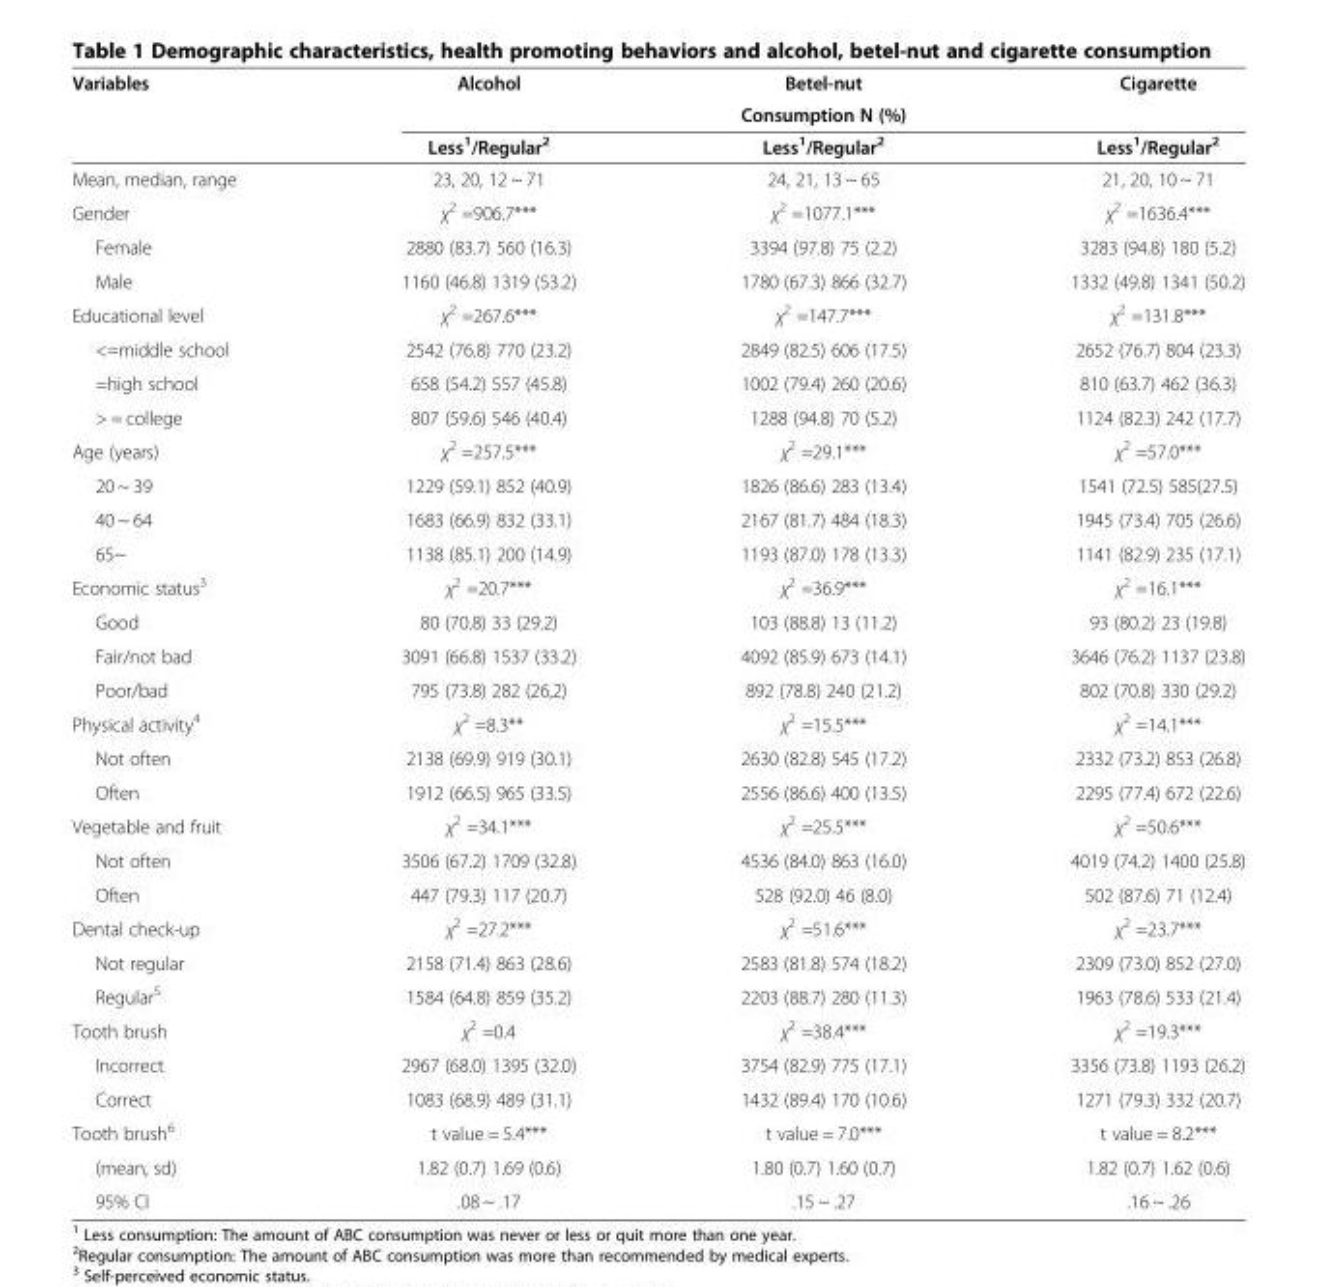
<table><thead><tr><td rowspan="3">Variables</td><td>Alcohol</td><td>Betel-nut</td><td>Cigarette</td></tr><tr><td colspan="3">Consumption N (%)</td></tr><tr><td>Less<sup>1</sup>/Regular<sup>2</sup></td><td>Less<sup>1</sup>/Regular<sup>2</sup></td><td>Less<sup>1</sup>/Regular<sup>2</sup></td></tr></thead><tbody><tr><td>Mean, median, range</td><td>23, 20, 12 ~ 71</td><td>24, 21, 13 ~ 65</td><td>21, 20, 10 ~ 71</td></tr><tr><td>Gender</td><td>χ<sup>2</sup> =906.7***</td><td>χ<sup>2</sup> =1077.1***</td><td>χ<sup>2</sup> =1636.4***</td></tr><tr><td>Female</td><td>2880 (83.7) 560 (16.3)</td><td>3394 (97.8) 75 (2.2)</td><td>3283 (94.8) 180 (5.2)</td></tr><tr><td>Male</td><td>1160 (46.8) 1319 (53.2)</td><td>1780 (67.3) 866 (32.7)</td><td>1332 (49.8) 1341 (50.2)</td></tr><tr><td>Educational level</td><td>χ<sup>2</sup> =267.6***</td><td>χ<sup>2</sup> =147.7***</td><td>χ<sup>2</sup> =131.8***</td></tr><tr><td>&lt;=middle school</td><td>2542 (76.8) 770 (23.2)</td><td>2849 (82.5) 606 (17.5)</td><td>2652 (76.7) 804 (23.3)</td></tr><tr><td>=high school</td><td>658 (54.2) 557 (45.8)</td><td>1002 (79.4) 260 (20.6)</td><td>810 (63.7) 462 (36.3)</td></tr><tr><td>&gt; = college</td><td>807 (59.6) 546 (40.4)</td><td>1288 (94.8) 70 (5.2)</td><td>1124 (82.3) 242 (17.7)</td></tr><tr><td>Age (years)</td><td>χ<sup>2</sup> =257.5***</td><td>χ<sup>2</sup> =29.1***</td><td>χ<sup>2</sup> =57.0***</td></tr><tr><td>20 ~ 39</td><td>1229 (59.1) 852 (40.9)</td><td>1826 (86.6) 283 (13.4)</td><td>1541 (72.5) 585(27.5)</td></tr><tr><td>40 ~ 64</td><td>1683 (66.9) 832 (33.1)</td><td>2167 (81.7) 484 (18.3)</td><td>1945 (73.4) 705 (26.6)</td></tr><tr><td>65~</td><td>1138 (85.1) 200 (14.9)</td><td>1193 (87.0) 178 (13.3)</td><td>1141 (82.9) 235 (17.1)</td></tr><tr><td>Economic status<sup>3</sup></td><td>χ<sup>2</sup> =20.7***</td><td>χ<sup>2</sup> =36.9***</td><td>χ<sup>2</sup> =16.1***</td></tr><tr><td>Good</td><td>80 (70.8) 33 (29.2)</td><td>103 (88.8) 13 (11.2)</td><td>93 (80.2) 23 (19.8)</td></tr><tr><td>Fair/not bad</td><td>3091 (66.8) 1537 (33.2)</td><td>4092 (85.9) 673 (14.1)</td><td>3646 (76.2) 1137 (23.8)</td></tr><tr><td>Poor/bad</td><td>795 (73.8) 282 (26,2)</td><td>892 (78.8) 240 (21.2)</td><td>802 (70.8) 330 (29.2)</td></tr><tr><td>Physical activity<sup>4</sup></td><td>χ<sup>2</sup> =8.3**</td><td>χ<sup>2</sup> =15.5***</td><td>χ<sup>2</sup> =14.1***</td></tr><tr><td>Not often</td><td>2138 (69.9) 919 (30.1)</td><td>2630 (82.8) 545 (17.2)</td><td>2332 (73.2) 853 (26.8)</td></tr><tr><td>Often</td><td>1912 (66.5) 965 (33.5)</td><td>2556 (86.6) 400 (13.5)</td><td>2295 (77.4) 672 (22.6)</td></tr><tr><td>Vegetable and fruit</td><td>χ<sup>2</sup> =34.1***</td><td>χ<sup>2</sup> =25.5***</td><td>χ<sup>2</sup> =50.6***</td></tr><tr><td>Not often</td><td>3506 (67.2) 1709 (32.8)</td><td>4536 (84.0) 863 (16.0)</td><td>4019 (74.2) 1400 (25.8)</td></tr><tr><td>Often</td><td>447 (79.3) 117 (20.7)</td><td>528 (92.0) 46 (8.0)</td><td>502 (87.6) 71 (12.4)</td></tr><tr><td>Dental check-up</td><td>χ<sup>2</sup> =27.2***</td><td>χ<sup>2</sup> =51.6***</td><td>χ<sup>2</sup> =23.7***</td></tr><tr><td>Not regular</td><td>2158 (71.4) 863 (28.6)</td><td>2583 (81.8) 574 (18.2)</td><td>2309 (73.0) 852 (27.0)</td></tr><tr><td>Regular<sup>5</sup></td><td>1584 (64.8) 859 (35.2)</td><td>2203 (88.7) 280 (11.3)</td><td>1963 (78.6) 533 (21.4)</td></tr><tr><td>Tooth brush</td><td>χ<sup>2</sup> =0.4</td><td>χ<sup>2</sup> =38.4***</td><td>χ<sup>2</sup> =19.3***</td></tr><tr><td>Incorrect</td><td>2967 (68.0) 1395 (32.0)</td><td>3754 (82.9) 775 (17.1)</td><td>3356 (73.8) 1193 (26.2)</td></tr><tr><td>Correct</td><td>1083 (68.9) 489 (31.1)</td><td>1432 (89.4) 170 (10.6)</td><td>1271 (79.3) 332 (20.7)</td></tr><tr><td>Tooth brush<sup>6</sup></td><td>t value = 5.4***</td><td>t value = 7.0***</td><td>t value = 8.2***</td></tr><tr><td>(mean, sd)</td><td>1.82 (0.7) 1.69 (0.6)</td><td>1.80 (0.7) 1.60 (0.7)</td><td>1.82 (0.7) 1.62 (0.6)</td></tr><tr><td>95% CI</td><td>.08 ~ .17</td><td>.15 ~ .27</td><td>.16 ~ .26</td></tr></tbody></table>